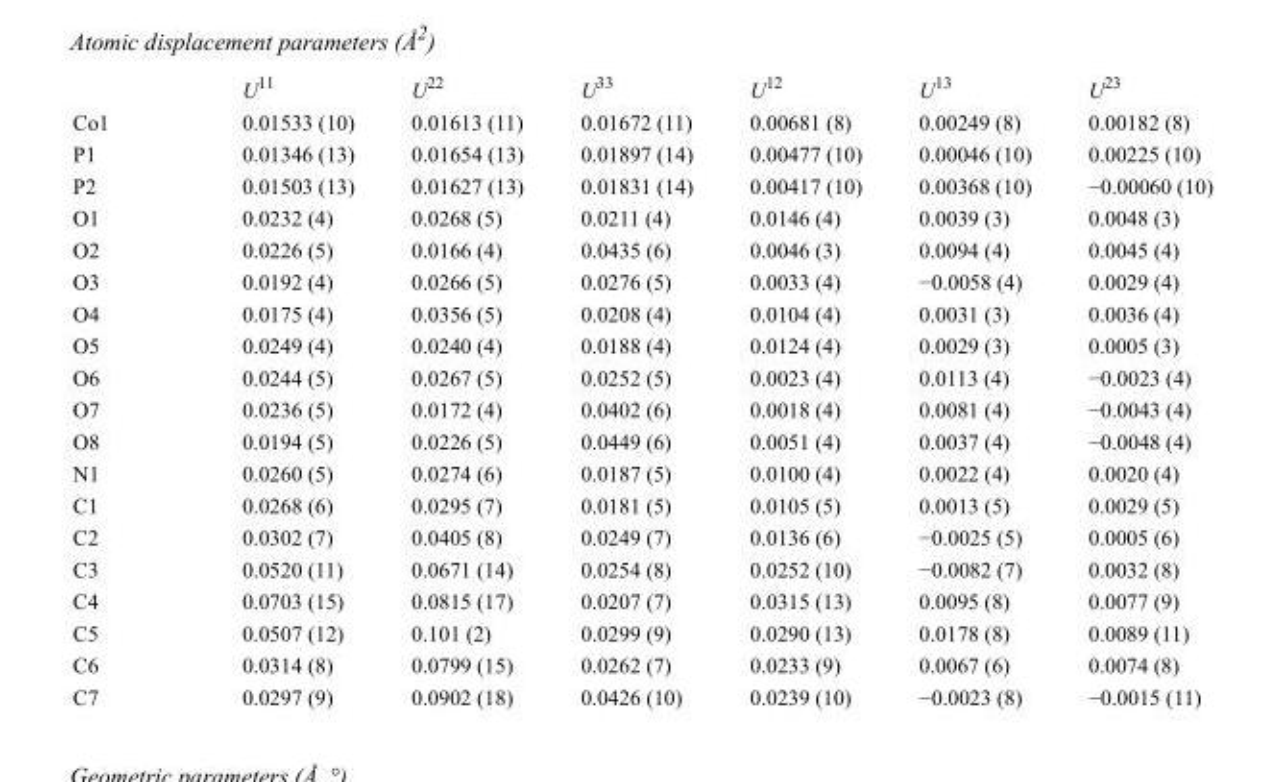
<table><thead><tr><td></td><td>U<sup>11</sup></td><td>U<sup>22</sup></td><td>U<sup>33</sup></td><td>U<sup>12</sup></td><td>U<sup>13</sup></td><td>U<sup>23</sup></td></tr></thead><tbody><tr><td>Co1</td><td>0.01533 (10)</td><td>0.01613 (11)</td><td>0.01672 (11)</td><td>0.00681 (8)</td><td>0.00249 (8)</td><td>0.00182 (8)</td></tr><tr><td>P1</td><td>0.01346 (13)</td><td>0.01654 (13)</td><td>0.01897 (14)</td><td>0.00477 (10)</td><td>0.00046 (10)</td><td>0.00225 (10)</td></tr><tr><td>P2</td><td>0.01503 (13)</td><td>0.01627 (13)</td><td>0.01831 (14)</td><td>0.00417 (10)</td><td>0.00368 (10)</td><td>−0.00060 (10)</td></tr><tr><td>O1</td><td>0.0232 (4)</td><td>0.0268 (5)</td><td>0.0211 (4)</td><td>0.0146 (4)</td><td>0.0039 (3)</td><td>0.0048 (3)</td></tr><tr><td>O2</td><td>0.0226 (5)</td><td>0.0166 (4)</td><td>0.0435 (6)</td><td>0.0046 (3)</td><td>0.0094 (4)</td><td>0.0045 (4)</td></tr><tr><td>O3</td><td>0.0192 (4)</td><td>0.0266 (5)</td><td>0.0276 (5)</td><td>0.0033 (4)</td><td>−0.0058 (4)</td><td>0.0029 (4)</td></tr><tr><td>O4</td><td>0.0175 (4)</td><td>0.0356 (5)</td><td>0.0208 (4)</td><td>0.0104 (4)</td><td>0.0031 (3)</td><td>0.0036 (4)</td></tr><tr><td>O5</td><td>0.0249 (4)</td><td>0.0240 (4)</td><td>0.0188 (4)</td><td>0.0124 (4)</td><td>0.0029 (3)</td><td>0.0005 (3)</td></tr><tr><td>O6</td><td>0.0244 (5)</td><td>0.0267 (5)</td><td>0.0252 (5)</td><td>0.0023 (4)</td><td>0.0113 (4)</td><td>−0.0023 (4)</td></tr><tr><td>O7</td><td>0.0236 (5)</td><td>0.0172 (4)</td><td>0.0402 (6)</td><td>0.0018 (4)</td><td>0.0081 (4)</td><td>−0.0043 (4)</td></tr><tr><td>O8</td><td>0.0194 (5)</td><td>0.0226 (5)</td><td>0.0449 (6)</td><td>0.0051 (4)</td><td>0.0037 (4)</td><td>−0.0048 (4)</td></tr><tr><td>N1</td><td>0.0260 (5)</td><td>0.0274 (6)</td><td>0.0187 (5)</td><td>0.0100 (4)</td><td>0.0022 (4)</td><td>0.0020 (4)</td></tr><tr><td>C1</td><td>0.0268 (6)</td><td>0.0295 (7)</td><td>0.0181 (5)</td><td>0.0105 (5)</td><td>0.0013 (5)</td><td>0.0029 (5)</td></tr><tr><td>C2</td><td>0.0302 (7)</td><td>0.0405 (8)</td><td>0.0249 (7)</td><td>0.0136 (6)</td><td>−0.0025 (5)</td><td>0.0005 (6)</td></tr><tr><td>C3</td><td>0.0520 (11)</td><td>0.0671 (14)</td><td>0.0254 (8)</td><td>0.0252 (10)</td><td>−0.0082 (7)</td><td>0.0032 (8)</td></tr><tr><td>C4</td><td>0.0703 (15)</td><td>0.0815 (17)</td><td>0.0207 (7)</td><td>0.0315 (13)</td><td>0.0095 (8)</td><td>0.0077 (9)</td></tr><tr><td>C5</td><td>0.0507 (12)</td><td>0.101 (2)</td><td>0.0299 (9)</td><td>0.0290 (13)</td><td>0.0178 (8)</td><td>0.0089 (11)</td></tr><tr><td>C6</td><td>0.0314 (8)</td><td>0.0799 (15)</td><td>0.0262 (7)</td><td>0.0233 (9)</td><td>0.0067 (6)</td><td>0.0074 (8)</td></tr><tr><td>C7</td><td>0.0297 (9)</td><td>0.0902 (18)</td><td>0.0426 (10)</td><td>0.0239 (10)</td><td>−0.0023 (8)</td><td>−0.0015 (11)</td></tr></tbody></table>